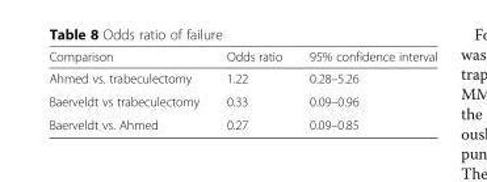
<table><thead><tr><td>Comparison</td><td>Odds ratio</td><td>95% confidence interval</td></tr></thead><tbody><tr><td>Ahmed vs. trabeculectomy</td><td>1.22</td><td>0.28–5.26</td></tr><tr><td>Baerveldt vs trabeculectomy</td><td>0.33</td><td>0.09–0.96</td></tr><tr><td>Baerveldt vs. Ahmed</td><td>0.27</td><td>0.09–0.85</td></tr></tbody></table>